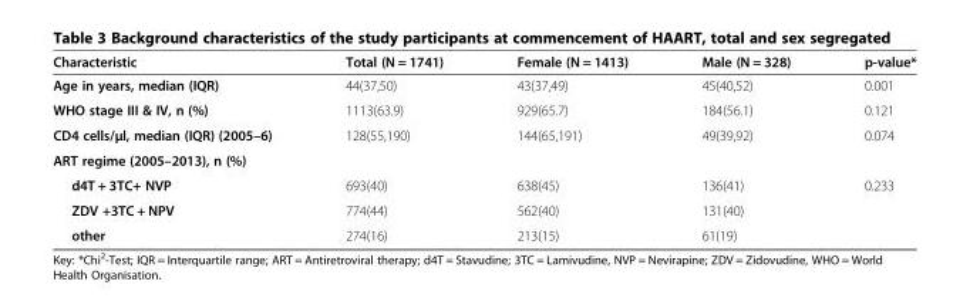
<table><thead><tr><td>Characteristic</td><td>Total (N = 1741)</td><td>Female (N = 1413)</td><td>Male (N = 328)</td><td>p-value*</td></tr></thead><tbody><tr><td>Age in years, median (IQR)</td><td>44(37,50)</td><td>43(37,49)</td><td>45(40,52)</td><td>0.001</td></tr><tr><td>WHO stage III &amp; IV, n (%)</td><td>1113(63.9)</td><td>929(65.7)</td><td>184(56.1)</td><td>0.121</td></tr><tr><td>CD4 cells/μl, median (IQR) (2005–6)</td><td>128(55,190)</td><td>144(65,191)</td><td>49(39,92)</td><td>0.074</td></tr><tr><td colspan="5">ART regime (2005–2013), n (%)</td></tr><tr><td>d4T + 3TC+ NVP</td><td>693(40)</td><td>638(45)</td><td>136(41)</td><td rowspan="3">0.233</td></tr><tr><td>ZDV +3TC + NPV</td><td>774(44)</td><td>562(40)</td><td>131(40)</td></tr><tr><td>other</td><td>274(16)</td><td>213(15)</td><td>61(19)</td></tr></tbody></table>